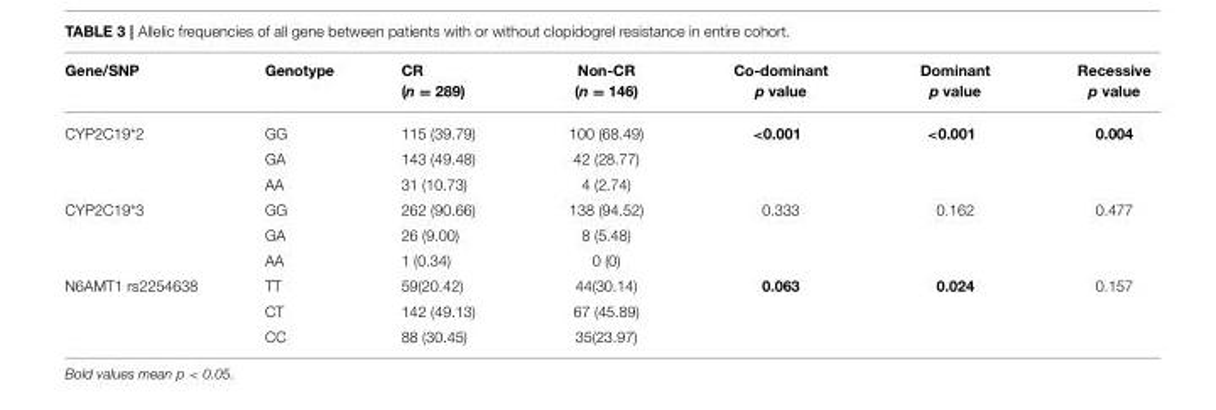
<table><thead><tr><td>Gene/SNP</td><td>Genotype</td><td>CR (n = 289)</td><td>Non-CR (n = 146)</td><td>Co-dominant p value</td><td>Dominant p value</td><td>Recessive p value</td></tr></thead><tbody><tr><td rowspan="3">CYP2C19*2</td><td>GG</td><td>115 (39.79)</td><td>100 (68.49)</td><td>&lt;0.001</td><td>&lt;0.001</td><td>0.004</td></tr><tr><td>GA</td><td>143 (49.48)</td><td>42 (28.77)</td><td></td><td></td><td></td></tr><tr><td>AA</td><td>31 (10.73)</td><td>4 (2.74)</td><td></td><td></td><td></td></tr><tr><td rowspan="3">CYP2C19*3</td><td>GG</td><td>262 (90.66)</td><td>138 (94.52)</td><td>0.333</td><td>0.162</td><td>0.477</td></tr><tr><td>GA</td><td>26 (9.00)</td><td>8 (5.48)</td><td></td><td></td><td></td></tr><tr><td>AA</td><td>1 (0.34)</td><td>0 (0)</td><td></td><td></td><td></td></tr><tr><td rowspan="3">N6AMT1 rs2254638</td><td>TT</td><td>59(20.42)</td><td>44(30.14)</td><td>0.063</td><td>0.024</td><td>0.157</td></tr><tr><td>CT</td><td>142 (49.13)</td><td>67 (45.89)</td><td></td><td></td><td></td></tr><tr><td>CC</td><td>88 (30.45)</td><td>35(23.97)</td><td></td><td></td><td></td></tr></tbody></table>